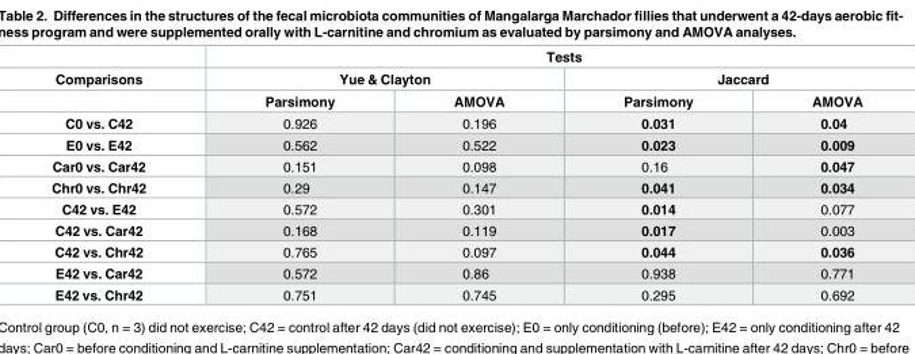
<table><thead><tr><td rowspan="3">Comparisons</td><td colspan="4">Tests</td></tr><tr><td colspan="2">Yue &amp; Clayton</td><td colspan="2">Jaccard</td></tr><tr><td>Parsimony</td><td>AMOVA</td><td>Parsimony</td><td>AMOVA</td></tr></thead><tbody><tr><td>C0 vs. C42</td><td>0.926</td><td>0.196</td><td>0.031</td><td>0.04</td></tr><tr><td>E0 vs. E42</td><td>0.562</td><td>0.522</td><td>0.023</td><td>0.009</td></tr><tr><td>Car0 vs. Car42</td><td>0.151</td><td>0.098</td><td>0.16</td><td>0.047</td></tr><tr><td>Chr0 vs. Chr42</td><td>0.29</td><td>0.147</td><td>0.041</td><td>0.034</td></tr><tr><td>C42 vs. E42</td><td>0.572</td><td>0.301</td><td>0.014</td><td>0.077</td></tr><tr><td>C42 vs. Car42</td><td>0.168</td><td>0.119</td><td>0.017</td><td>0.003</td></tr><tr><td>C42 vs. Chr42</td><td>0.765</td><td>0.097</td><td>0.044</td><td>0.036</td></tr><tr><td>E42 vs. Car42</td><td>0.572</td><td>0.86</td><td>0.938</td><td>0.771</td></tr><tr><td>E42 vs. Chr42</td><td>0.751</td><td>0.745</td><td>0.295</td><td>0.692</td></tr></tbody></table>